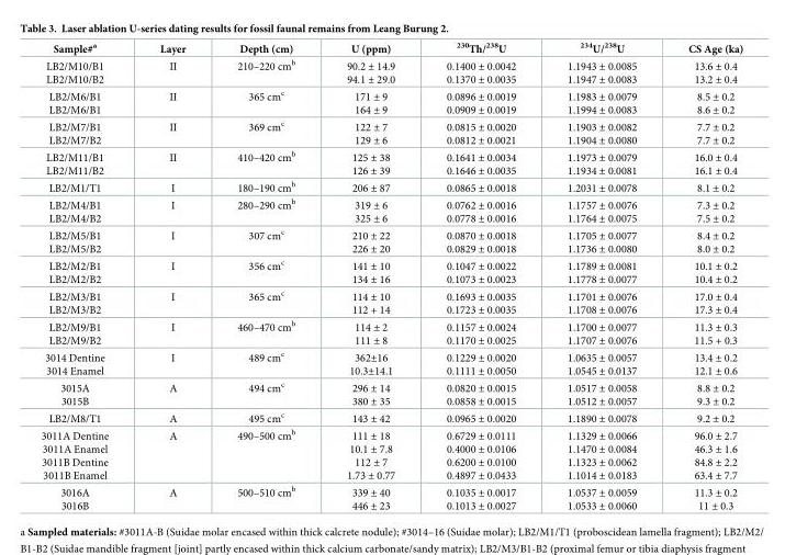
<table><thead><tr><td>Sample#<sup>a</sup></td><td>Layer</td><td>Depth (cm)</td><td>U (ppm)</td><td><sup>230</sup>Th/<sup>238</sup>U</td><td><sup>234</sup>U/<sup>238</sup>U</td><td>CS Age (ka)</td></tr></thead><tbody><tr><td>LB2/M10/B1 LB2/M10/B2</td><td>II</td><td>210–220 cm<sup>b</sup></td><td>90.2 ± 14.9 94.1 ± 29.0</td><td>0.1400 ± 0.0042 0.1370 ± 0.0035</td><td>1.1943 ± 0.0085 1.1947 ± 0.0083</td><td>13.6 ± 0.4 13.2 ± 0.4</td></tr><tr><td>LB2/M6/B1 LB2/M6/B1</td><td>II</td><td>365 cm<sup>c</sup></td><td>171 ± 9 164 ± 9</td><td>0.0896 ± 0.0019 0.0909 ± 0.0019</td><td>1.1983 ± 0.0079 1.1994 ± 0.0083</td><td>8.5 ± 0.2 8.6 ± 0.2</td></tr><tr><td>LB2/M7/B1 LB2/M7/B2</td><td>II</td><td>369 cm<sup>c</sup></td><td>122 ± 7 129 ± 6</td><td>0.0815 ± 0.0020 0.0812 ± 0.0021</td><td>1.1903 ± 0.0082 1.1904 ± 0.0080</td><td>7.7 ± 0.2 7.7 ± 0.2</td></tr><tr><td>LB2/M11/B1 LB2/M11/B2</td><td>II</td><td>410–420 cm<sup>b</sup></td><td>125 ± 38 126 ± 39</td><td>0.1641 ± 0.0034 0.1646 ± 0.0035</td><td>1.1973 ± 0.0079 1.1934 ± 0.0081</td><td>16.0 ± 0.4 16.1 ± 0.4</td></tr><tr><td>LB2/M1/T1</td><td>I</td><td>180–190 cm<sup>b</sup></td><td>206 ± 87</td><td>0.0865 ± 0.0018</td><td>1.2031 ± 0.0078</td><td>8.1 ± 0.2</td></tr><tr><td>LB2/M4/B1 LB2/M4/B2</td><td>I</td><td>280–290 cm<sup>b</sup></td><td>319 ± 6 325 ± 6</td><td>0.0762 ± 0.0016 0.0778 ± 0.0016</td><td>1.1757 ± 0.0076 1.1764 ± 0.0075</td><td>7.3 ± 0.2 7.5 ± 0.2</td></tr><tr><td>LB2/M5/B1 LB2/M5/B2</td><td>I</td><td>307 cm<sup>c</sup></td><td>210 ± 22 226 ± 20</td><td>0.0870 ± 0.0018 0.0829 ± 0.0018</td><td>1.1705 ± 0.0077 1.1736 ± 0.0080</td><td>8.4 ± 0.2 8.0 ± 0.2</td></tr><tr><td>LB2/M2/B1 LB2/M2/B2</td><td>I</td><td>356 cm<sup>c</sup></td><td>141 ± 10 134 ± 16</td><td>0.1047 ± 0.0022 0.1073 ± 0.0023</td><td>1.1789 ± 0.0081 1.1778 ± 0.0077</td><td>10.1 ± 0.2 10.4 ± 0.2</td></tr><tr><td>LB2/M3/B1 LB2/M3/B2</td><td>I</td><td>365 cm<sup>c</sup></td><td>114 ± 10 112 + 14</td><td>0.1693 ± 0.0035 0.1723 ± 0.0035</td><td>1.1701 ± 0.0076 1.1708 ± 0.0076</td><td>17.0 ± 0.4 17.3 ± 0.4</td></tr><tr><td>LB2/M9/B1 LB2/M9/B2</td><td>I</td><td>460–470 cm<sup>b</sup></td><td>114 ± 2 111 ± 8</td><td>0.1157 ± 0.0024 0.1170 ± 0.0025</td><td>1.1700 ± 0.0077 1.1707 ± 0.0076</td><td>11.3 ± 0.3 11.5 + 0.3</td></tr><tr><td>3014 Dentine 3014 Enamel</td><td>I</td><td>489 cm<sup>c</sup></td><td>362±16 10.3±14.1</td><td>0.1229 ± 0.0020 0.1111 ± 0.0050</td><td>1.0635 ± 0.0057 1.0545 ± 0.0137</td><td>13.4 ± 0.2 12.1 ± 0.6</td></tr><tr><td>3015A 3015B</td><td>A</td><td>494 cm<sup>c</sup></td><td>296 ± 14 380 ± 35</td><td>0.0820 ± 0.0015 0.0858 ± 0.0015</td><td>1.0517 ± 0.0058 1.0512 ± 0.0057</td><td>8.8 ± 0.2 9.3 ± 0.2</td></tr><tr><td>LB2/M8/T1</td><td>A</td><td>495 cm<sup>c</sup></td><td>143 ± 42</td><td>0.0965 ± 0.0020</td><td>1.1890 ± 0.0078</td><td>9.2 ± 0.2</td></tr><tr><td>3011A Dentine 3011A Enamel 3011B Dentine 3011B Enamel</td><td>A</td><td>490–500 cm<sup>b</sup></td><td>111 ± 18 10.1 ± 7.8 112 ± 7 1.73 ± 0.77</td><td>0.6729 ± 0.0111 0.4000 ± 0.0106 0.6200 ± 0.0100 0.4897 ± 0.0433</td><td>1.1329 ± 0.0066 1.1470 ± 0.0084 1.1323 ± 0.0062 1.1014 ± 0.0183</td><td>96.0 ± 2.7 46.3 ± 1.6 84.8 ± 2.2 63.4 ± 7.7</td></tr><tr><td>3016A 3016B</td><td>A</td><td>500–510 cm<sup>b</sup></td><td>339 ± 40 446 ± 23</td><td>0.1035 ± 0.0017 0.1013 ± 0.0027</td><td>1.0537 ± 0.0059 1.0533 ± 0.0060</td><td>11.3 ± 0.2 11 ± 0.3</td></tr></tbody></table>